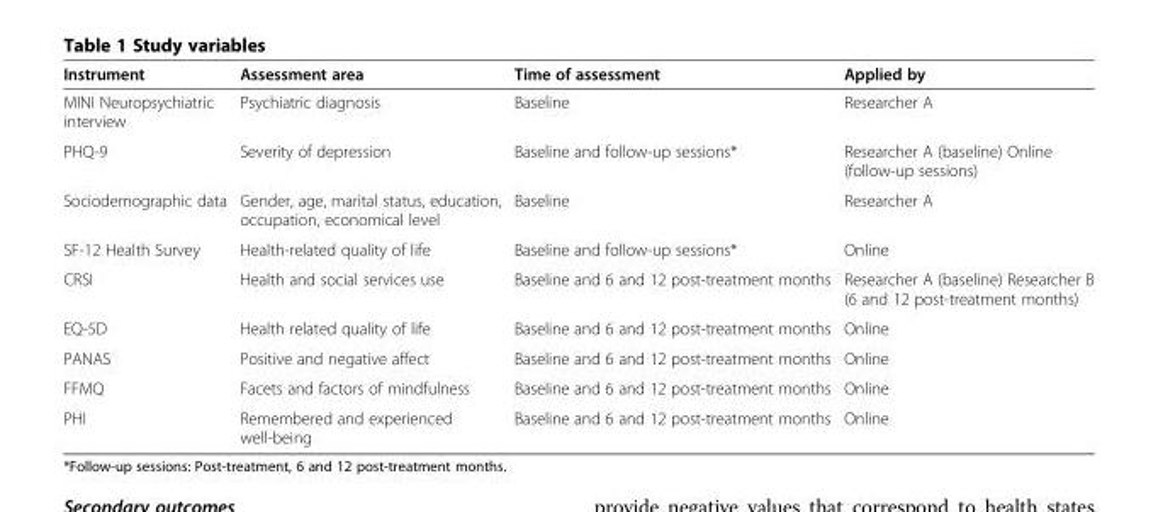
<table><thead><tr><td>Instrument</td><td>Assessment area</td><td>Time of assessment</td><td>Applied by</td></tr></thead><tbody><tr><td>MINI Neuropsychiatric interview</td><td>Psychiatric diagnosis</td><td>Baseline</td><td>Researcher A</td></tr><tr><td>PHQ-9</td><td>Severity of depression</td><td>Baseline and follow-up sessions*</td><td>Researcher A (baseline) Online (follow-up sessions)</td></tr><tr><td>Sociodemographic data</td><td>Gender, age, marital status, education, occupation, economical level</td><td>Baseline</td><td>Researcher A</td></tr><tr><td>SF-12 Health Survey</td><td>Health-related quality of life</td><td>Baseline and follow-up sessions*</td><td>Online</td></tr><tr><td>CRSI</td><td>Health and social services use</td><td>Baseline and 6 and 12 post-treatment months</td><td>Researcher A (baseline) Researcher B (6 and 12 post-treatment months)</td></tr><tr><td>EQ-5D</td><td>Health related quality of life</td><td>Baseline and 6 and 12 post-treatment months</td><td>Online</td></tr><tr><td>PANAS</td><td>Positive and negative affect</td><td>Baseline and 6 and 12 post-treatment months</td><td>Online</td></tr><tr><td>FFMQ</td><td>Facets and factors of mindfulness</td><td>Baseline and 6 and 12 post-treatment months</td><td>Online</td></tr><tr><td>PHI</td><td>Remembered and experienced well-being</td><td>Baseline and 6 and 12 post-treatment months</td><td>Online</td></tr></tbody></table>